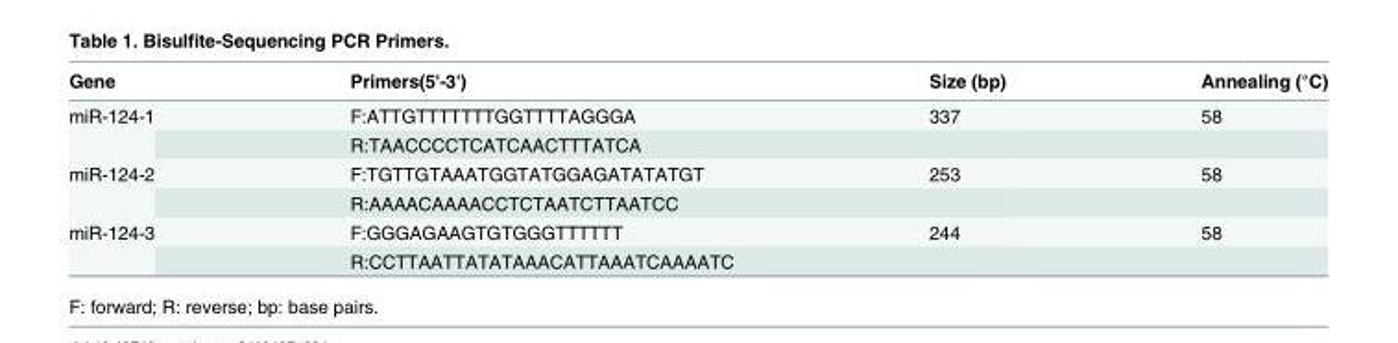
<table><thead><tr><td>Gene</td><td>Primers(5&#x27;-3&#x27;)</td><td>Size (bp)</td><td>Annealing (°C)</td></tr></thead><tbody><tr><td rowspan="2">miR-124-1</td><td>F:ATTGTTTTTTTGGTTTTAGGGA</td><td>337</td><td>58</td></tr><tr><td>R:TAACCCCTCATCAACTTTATCA</td><td></td><td></td></tr><tr><td rowspan="2">miR-124-2</td><td>F:TGTTGTAAATGGTATGGAGATATATGT</td><td>253</td><td>58</td></tr><tr><td>R:AAAACAAAACCTCTAATCTTAATCC</td><td></td><td></td></tr><tr><td rowspan="2">miR-124-3</td><td>F:GGGAGAAGTGTGGGTTTTTT</td><td>244</td><td>58</td></tr><tr><td>R:CCTTAATTATATAAACATTAAATCAAAATC</td><td></td><td></td></tr></tbody></table>